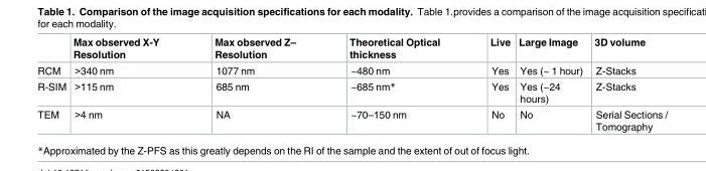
<table><thead><tr><td></td><td>Max observed X-Y Resolution</td><td>Max observed Z– Resolution</td><td>Theoretical Optical thickness</td><td>Live</td><td>Large Image</td><td>3D volume</td></tr></thead><tbody><tr><td>RCM</td><td>&gt;340 nm</td><td>1077 nm</td><td>~480 nm</td><td>Yes</td><td>Yes (~ 1 hour)</td><td>Z-Stacks</td></tr><tr><td>R-SIM</td><td>&gt;115 nm</td><td>685 nm</td><td>~685 nm*</td><td>Yes</td><td>Yes (~24 hours)</td><td>Z-Stacks</td></tr><tr><td>TEM</td><td>&gt;4 nm</td><td>NA</td><td>~70–150 nm</td><td>No</td><td>No</td><td>Serial Sections / Tomography</td></tr></tbody></table>